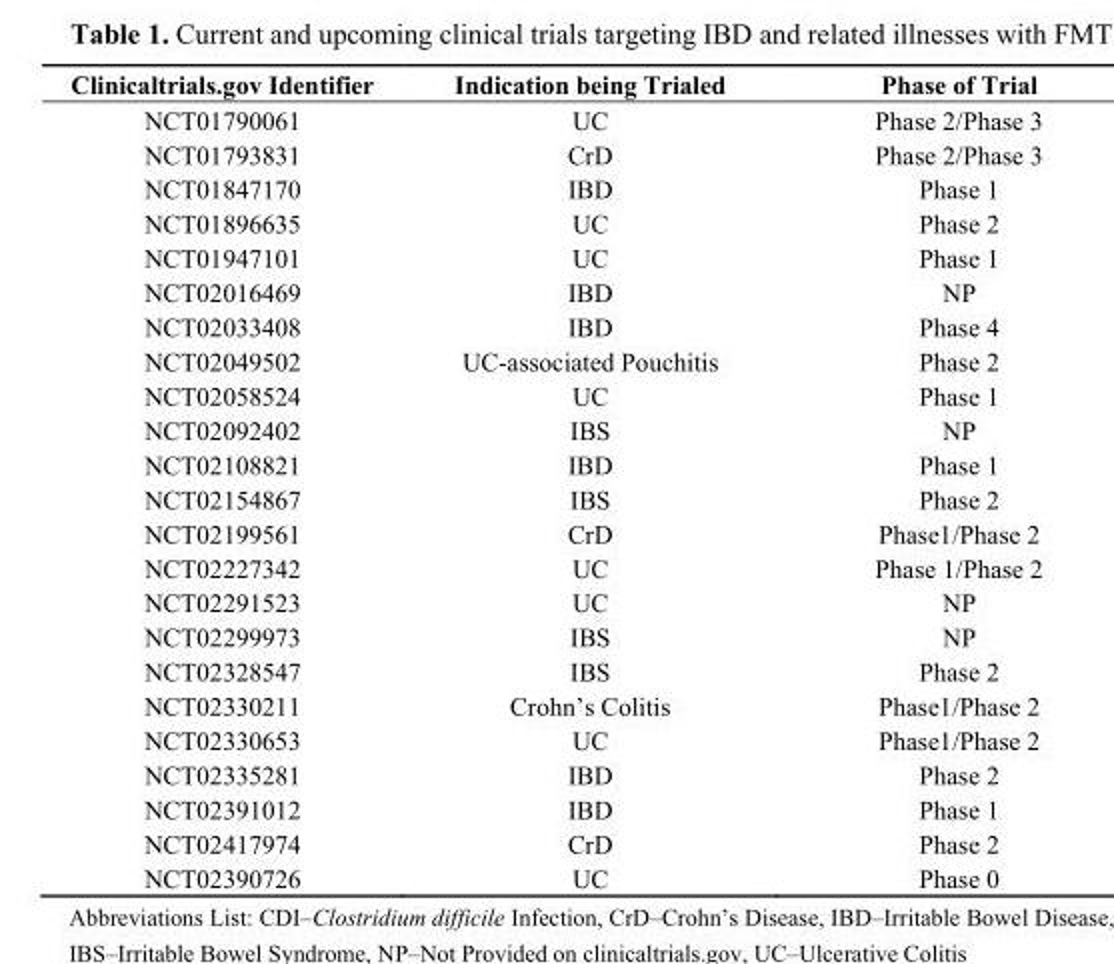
<table><thead><tr><td>Clinicaltrials.gov Identifier</td><td>Indication being Trialed</td><td>Phase of Trial</td></tr></thead><tbody><tr><td>NCT01790061</td><td>UC</td><td>Phase 2/Phase 3</td></tr><tr><td>NCT01793831</td><td>CrD</td><td>Phase 2/Phase 3</td></tr><tr><td>NCT01847170</td><td>IBD</td><td>Phase 1</td></tr><tr><td>NCT01896635</td><td>UC</td><td>Phase 2</td></tr><tr><td>NCT01947101</td><td>UC</td><td>Phase 1</td></tr><tr><td>NCT02016469</td><td>IBD</td><td>NP</td></tr><tr><td>NCT02033408</td><td>IBD</td><td>Phase 4</td></tr><tr><td>NCT02049502</td><td>UC-associated Pouchitis</td><td>Phase 2</td></tr><tr><td>NCT02058524</td><td>UC</td><td>Phase 1</td></tr><tr><td>NCT02092402</td><td>IBS</td><td>NP</td></tr><tr><td>NCT02108821</td><td>IBD</td><td>Phase 1</td></tr><tr><td>NCT02154867</td><td>IBS</td><td>Phase 2</td></tr><tr><td>NCT02199561</td><td>CrD</td><td>Phase1/Phase 2</td></tr><tr><td>NCT02227342</td><td>UC</td><td>Phase 1/Phase 2</td></tr><tr><td>NCT02291523</td><td>UC</td><td>NP</td></tr><tr><td>NCT02299973</td><td>IBS</td><td>NP</td></tr><tr><td>NCT02328547</td><td>IBS</td><td>Phase 2</td></tr><tr><td>NCT02330211</td><td>Crohn’s Colitis</td><td>Phase1/Phase 2</td></tr><tr><td>NCT02330653</td><td>UC</td><td>Phase1/Phase 2</td></tr><tr><td>NCT02335281</td><td>IBD</td><td>Phase 2</td></tr><tr><td>NCT02391012</td><td>IBD</td><td>Phase 1</td></tr><tr><td>NCT02417974</td><td>CrD</td><td>Phase 2</td></tr><tr><td>NCT02390726</td><td>UC</td><td>Phase 0</td></tr></tbody></table>